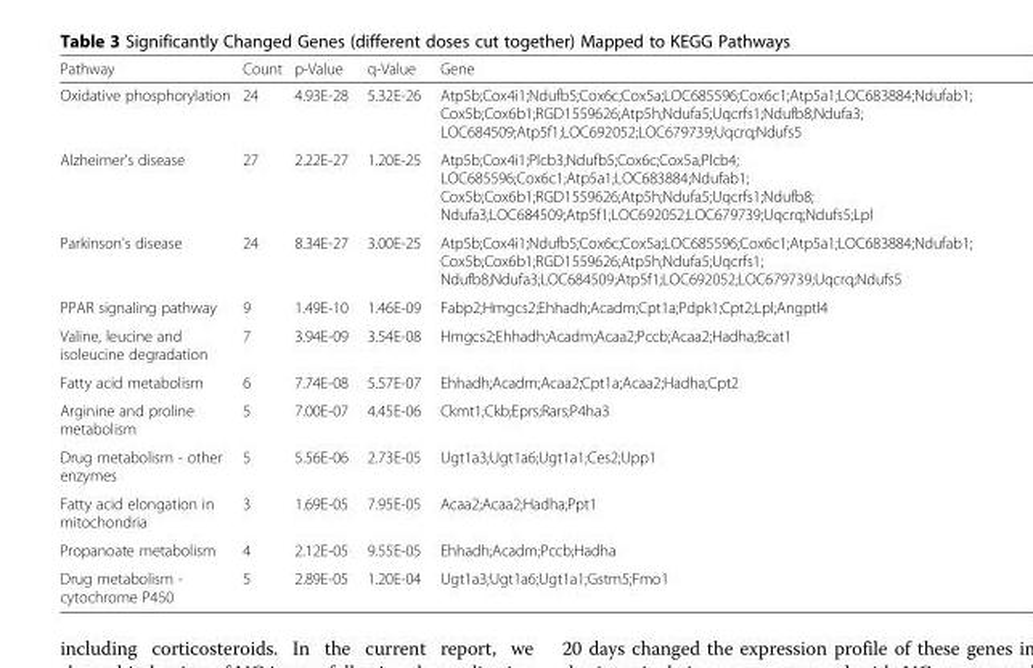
<table><thead><tr><td>Pathway</td><td>Count</td><td>p-Value</td><td>q-Value</td><td>Gene</td></tr></thead><tbody><tr><td>Oxidative phosphorylation</td><td>24</td><td>4.93E-28</td><td>5.32E-26</td><td>Atp5b;Cox4i1;Ndufb5;Cox6c;Cox5a;LOC685596;Cox6c1;Atp5a1;LOC683884;Ndufab1; Cox5b;Cox6b1;RGD1559626;Atp5h;Ndufa5;Uqcrfs1;Ndufb8;Ndufa3; LOC684509;Atp5f1;LOC692052;LOC679739;Uqcrq;Ndufs5</td></tr><tr><td>Alzheimer&#x27;s disease</td><td>27</td><td>2.22E-27</td><td>1.20E-25</td><td>Atp5b;Cox4i1;Plcb3;Ndufb5;Cox6c;Cox5a;Plcb4; LOC685596;Cox6c1;Atp5a1;LOC683884;Ndufab1; Cox5b;Cox6b1;RGD1559626;Atp5h;Ndufa5;Uqcrfs1;Ndufb8; Ndufa3;LOC684509;Atp5f1;LOC692052;LOC679739;Uqcrq;Ndufs5;Lpl</td></tr><tr><td>Parkinson&#x27;s disease</td><td>24</td><td>8.34E-27</td><td>3.00E-25</td><td>Atp5b;Cox4i1;Ndufb5;Cox6c;Cox5a;LOC685596;Cox6c1;Atp5a1;LOC683884;Ndufab1; Cox5b;Cox6b1;RGD1559626;Atp5h;Ndufa5;Uqcrfs1; Ndufb8;Ndufa3;LOC684509;Atp5f1;LOC692052;LOC679739;Uqcrq;Ndufs5</td></tr><tr><td>PPAR signaling pathway</td><td>9</td><td>1.49E-10</td><td>1.46E-09</td><td>Fabp2;Hmgcs2;Ehhadh;Acadm;Cpt1a;Pdpk1;Cpt2;Lpl;Angptl4</td></tr><tr><td>Valine, leucine and isoleucine degradation</td><td>7</td><td>3.94E-09</td><td>3.54E-08</td><td>Hmgcs2;Ehhadh;Acadm;Acaa2;Pccb;Acaa2;Hadha;Bcat1</td></tr><tr><td>Fatty acid metabolism</td><td>6</td><td>7.74E-08</td><td>5.57E-07</td><td>Ehhadh;Acadm;Acaa2;Cpt1a;Acaa2;Hadha;Cpt2</td></tr><tr><td>Arginine and proline metabolism</td><td>5</td><td>7.00E-07</td><td>4.45E-06</td><td>Ckmt1;Ckb;Eprs;Rars;P4ha3</td></tr><tr><td>Drug metabolism - other enzymes</td><td>5</td><td>5.56E-06</td><td>2.73E-05</td><td>Ugt1a3;Ugt1a6;Ugt1a1;Ces2;Upp1</td></tr><tr><td>Fatty acid elongation in mitochondria</td><td>3</td><td>1.69E-05</td><td>7.95E-05</td><td>Acaa2;Acaa2;Hadha;Ppt1</td></tr><tr><td>Propanoate metabolism</td><td>4</td><td>2.12E-05</td><td>9.55E-05</td><td>Ehhadh;Acadm;Pccb;Hadha</td></tr><tr><td>Drug metabolism - cytochrome P450</td><td>5</td><td>2.89E-05</td><td>1.20E-04</td><td>Ugt1a3;Ugt1a6;Ugt1a1;Gstm5;Fmo1</td></tr></tbody></table>